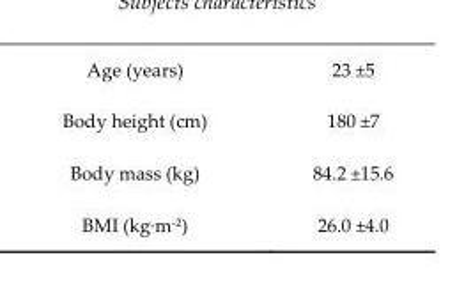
<table><tbody><tr><td>Age (years)</td><td>23 ±5</td></tr><tr><td>Body height (cm)</td><td>180 ±7</td></tr><tr><td>Body mass (kg)</td><td>84.2 ±15.6</td></tr><tr><td>BMI (kg∙m-2)</td><td>26.0 ±4.0</td></tr></tbody></table>